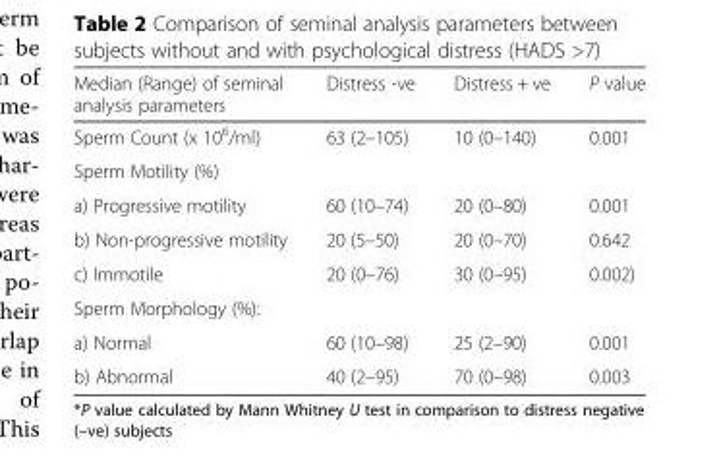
<table><thead><tr><td>Median (Range) of seminal analysis parameters</td><td>Distress -ve</td><td>Distress + ve</td><td>P value</td></tr></thead><tbody><tr><td>Sperm Count (x 10<sup>6</sup>/ml)</td><td>63 (2–105)</td><td>10 (0–140)</td><td>0.001</td></tr><tr><td colspan="4">Sperm Motility (%)</td></tr><tr><td>a) Progressive motility</td><td>60 (10–74)</td><td>20 (0–80)</td><td>0.001</td></tr><tr><td>b) Non-progressive motility</td><td>20 (5–50)</td><td>20 (0–70)</td><td>0.642</td></tr><tr><td>c) Immotile</td><td>20 (0–76)</td><td>30 (0–95)</td><td>0.002)</td></tr><tr><td colspan="4">Sperm Morphology (%):</td></tr><tr><td>a) Normal</td><td>60 (10–98)</td><td>25 (2–90)</td><td>0.001</td></tr><tr><td>b) Abnormal</td><td>40 (2–95)</td><td>70 (0–98)</td><td>0.003</td></tr></tbody></table>